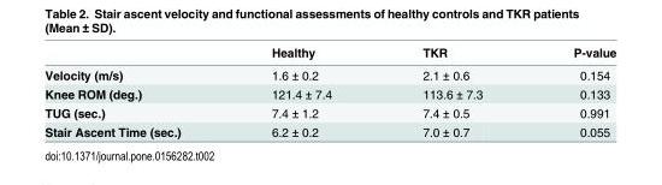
<table><thead><tr><td></td><td>Healthy</td><td>TKR</td><td>P-value</td></tr></thead><tbody><tr><td>Velocity (m/s)</td><td>1.6 ± 0.2</td><td>2.1 ± 0.6</td><td>0.154</td></tr><tr><td>Knee ROM (deg.)</td><td>121.4 ± 7.4</td><td>113.6 ± 7.3</td><td>0.133</td></tr><tr><td>TUG (sec.)</td><td>7.4 ± 1.2</td><td>7.4 ± 0.5</td><td>0.991</td></tr><tr><td>Stair Ascent Time (sec.)</td><td>6.2 ± 0.2</td><td>7.0 ± 0.7</td><td>0.055</td></tr></tbody></table>